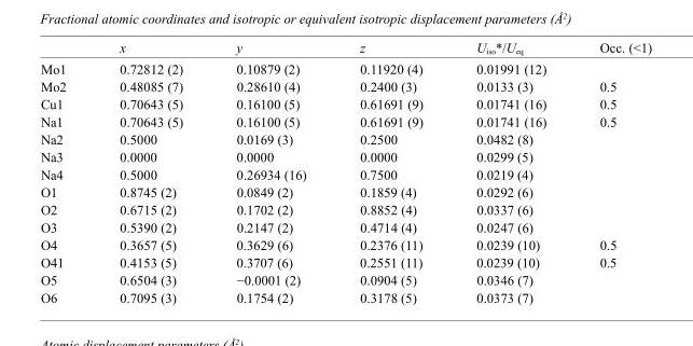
<table><thead><tr><td></td><td>x</td><td>y</td><td>z</td><td>U<sub>iso</sub>*/U<sub>eq</sub></td><td>Occ. (&lt;1)</td></tr></thead><tbody><tr><td>Mo1</td><td>0.72812 (2)</td><td>0.10879 (2)</td><td>0.11920 (4)</td><td>0.01991 (12)</td><td></td></tr><tr><td>Mo2</td><td>0.48085 (7)</td><td>0.28610 (4)</td><td>0.2400 (3)</td><td>0.0133 (3)</td><td>0.5</td></tr><tr><td>Cu1</td><td>0.70643 (5)</td><td>0.16100 (5)</td><td>0.61691 (9)</td><td>0.01741 (16)</td><td>0.5</td></tr><tr><td>Na1</td><td>0.70643 (5)</td><td>0.16100 (5)</td><td>0.61691 (9)</td><td>0.01741 (16)</td><td>0.5</td></tr><tr><td>Na2</td><td>0.5000</td><td>0.0169 (3)</td><td>0.2500</td><td>0.0482 (8)</td><td></td></tr><tr><td>Na3</td><td>0.0000</td><td>0.0000</td><td>0.0000</td><td>0.0299 (5)</td><td></td></tr><tr><td>Na4</td><td>0.5000</td><td>0.26934 (16)</td><td>0.7500</td><td>0.0219 (4)</td><td></td></tr><tr><td>O1</td><td>0.8745 (2)</td><td>0.0849 (2)</td><td>0.1859 (4)</td><td>0.0292 (6)</td><td></td></tr><tr><td>O2</td><td>0.6715 (2)</td><td>0.1702 (2)</td><td>0.8852 (4)</td><td>0.0337 (6)</td><td></td></tr><tr><td>O3</td><td>0.5390 (2)</td><td>0.2147 (2)</td><td>0.4714 (4)</td><td>0.0247 (6)</td><td></td></tr><tr><td>O4</td><td>0.3657 (5)</td><td>0.3629 (6)</td><td>0.2376 (11)</td><td>0.0239 (10)</td><td>0.5</td></tr><tr><td>O41</td><td>0.4153 (5)</td><td>0.3707 (6)</td><td>0.2551 (11)</td><td>0.0239 (10)</td><td>0.5</td></tr><tr><td>O5</td><td>0.6504 (3)</td><td>−0.0001 (2)</td><td>0.0904 (5)</td><td>0.0346 (7)</td><td></td></tr><tr><td>O6</td><td>0.7095 (3)</td><td>0.1754 (2)</td><td>0.3178 (5)</td><td>0.0373 (7)</td><td></td></tr></tbody></table>